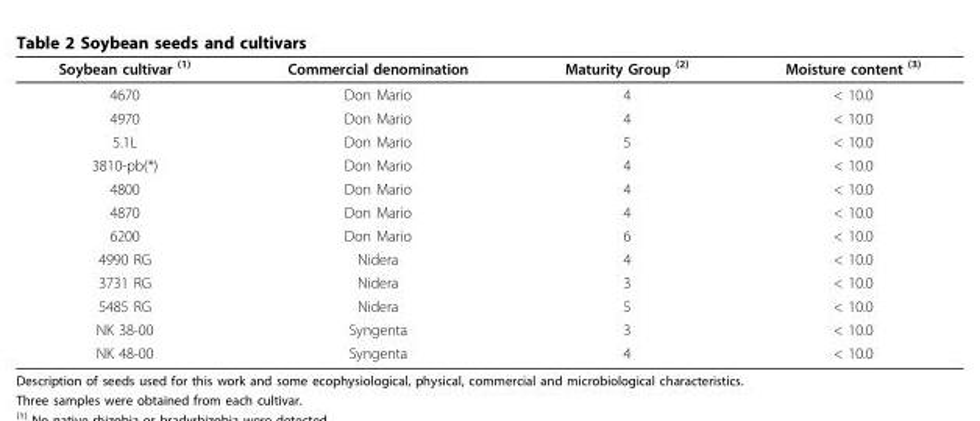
<table><thead><tr><td>Soybean cultivar <sup>(1)</sup></td><td>Commercial denomination</td><td>Maturity Group <sup>(2)</sup></td><td>Moisture content <sup>(3)</sup></td></tr></thead><tbody><tr><td>4670</td><td>Don Mario</td><td>4</td><td>&lt; 10.0</td></tr><tr><td>4970</td><td>Don Mario</td><td>4</td><td>&lt; 10.0</td></tr><tr><td>5.1L</td><td>Don Mario</td><td>5</td><td>&lt; 10.0</td></tr><tr><td>3810-pb(*)</td><td>Don Mario</td><td>4</td><td>&lt; 10.0</td></tr><tr><td>4800</td><td>Don Mario</td><td>4</td><td>&lt; 10.0</td></tr><tr><td>4870</td><td>Don Mario</td><td>4</td><td>&lt; 10.0</td></tr><tr><td>6200</td><td>Don Mario</td><td>6</td><td>&lt; 10.0</td></tr><tr><td>4990 RG</td><td>Nidera</td><td>4</td><td>&lt; 10.0</td></tr><tr><td>3731 RG</td><td>Nidera</td><td>3</td><td>&lt; 10.0</td></tr><tr><td>5485 RG</td><td>Nidera</td><td>5</td><td>&lt; 10.0</td></tr><tr><td>NK 38-00</td><td>Syngenta</td><td>3</td><td>&lt; 10.0</td></tr><tr><td>NK 48-00</td><td>Syngenta</td><td>4</td><td>&lt; 10.0</td></tr></tbody></table>